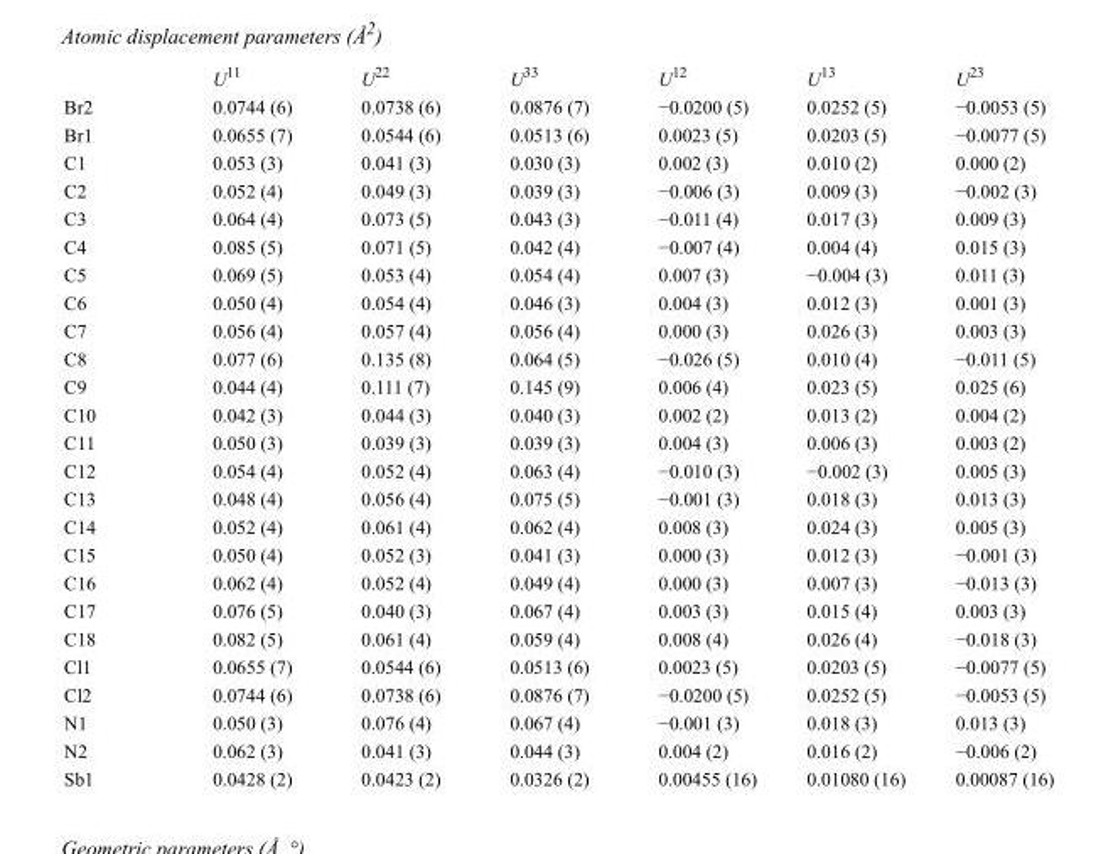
<table><thead><tr><td></td><td>U<sup>11</sup></td><td>U<sup>22</sup></td><td>U<sup>33</sup></td><td>U<sup>12</sup></td><td>U<sup>13</sup></td><td>U<sup>23</sup></td></tr></thead><tbody><tr><td>Br2</td><td>0.0744 (6)</td><td>0.0738 (6)</td><td>0.0876 (7)</td><td>−0.0200 (5)</td><td>0.0252 (5)</td><td>−0.0053 (5)</td></tr><tr><td>Br1</td><td>0.0655 (7)</td><td>0.0544 (6)</td><td>0.0513 (6)</td><td>0.0023 (5)</td><td>0.0203 (5)</td><td>−0.0077 (5)</td></tr><tr><td>C1</td><td>0.053 (3)</td><td>0.041 (3)</td><td>0.030 (3)</td><td>0.002 (3)</td><td>0.010 (2)</td><td>0.000 (2)</td></tr><tr><td>C2</td><td>0.052 (4)</td><td>0.049 (3)</td><td>0.039 (3)</td><td>−0.006 (3)</td><td>0.009 (3)</td><td>−0.002 (3)</td></tr><tr><td>C3</td><td>0.064 (4)</td><td>0.073 (5)</td><td>0.043 (3)</td><td>−0.011 (4)</td><td>0.017 (3)</td><td>0.009 (3)</td></tr><tr><td>C4</td><td>0.085 (5)</td><td>0.071 (5)</td><td>0.042 (4)</td><td>−0.007 (4)</td><td>0.004 (4)</td><td>0.015 (3)</td></tr><tr><td>C5</td><td>0.069 (5)</td><td>0.053 (4)</td><td>0.054 (4)</td><td>0.007 (3)</td><td>−0.004 (3)</td><td>0.011 (3)</td></tr><tr><td>C6</td><td>0.050 (4)</td><td>0.054 (4)</td><td>0.046 (3)</td><td>0.004 (3)</td><td>0.012 (3)</td><td>0.001 (3)</td></tr><tr><td>C7</td><td>0.056 (4)</td><td>0.057 (4)</td><td>0.056 (4)</td><td>0.000 (3)</td><td>0.026 (3)</td><td>0.003 (3)</td></tr><tr><td>C8</td><td>0.077 (6)</td><td>0.135 (8)</td><td>0.064 (5)</td><td>−0.026 (5)</td><td>0.010 (4)</td><td>−0.011 (5)</td></tr><tr><td>C9</td><td>0.044 (4)</td><td>0.111 (7)</td><td>0.145 (9)</td><td>0.006 (4)</td><td>0.023 (5)</td><td>0.025 (6)</td></tr><tr><td>C10</td><td>0.042 (3)</td><td>0.044 (3)</td><td>0.040 (3)</td><td>0.002 (2)</td><td>0.013 (2)</td><td>0.004 (2)</td></tr><tr><td>C11</td><td>0.050 (3)</td><td>0.039 (3)</td><td>0.039 (3)</td><td>0.004 (3)</td><td>0.006 (3)</td><td>0.003 (2)</td></tr><tr><td>C12</td><td>0.054 (4)</td><td>0.052 (4)</td><td>0.063 (4)</td><td>−0.010 (3)</td><td>−0.002 (3)</td><td>0.005 (3)</td></tr><tr><td>C13</td><td>0.048 (4)</td><td>0.056 (4)</td><td>0.075 (5)</td><td>−0.001 (3)</td><td>0.018 (3)</td><td>0.013 (3)</td></tr><tr><td>C14</td><td>0.052 (4)</td><td>0.061 (4)</td><td>0.062 (4)</td><td>0.008 (3)</td><td>0.024 (3)</td><td>0.005 (3)</td></tr><tr><td>C15</td><td>0.050 (4)</td><td>0.052 (3)</td><td>0.041 (3)</td><td>0.000 (3)</td><td>0.012 (3)</td><td>−0.001 (3)</td></tr><tr><td>C16</td><td>0.062 (4)</td><td>0.052 (4)</td><td>0.049 (4)</td><td>0.000 (3)</td><td>0.007 (3)</td><td>−0.013 (3)</td></tr><tr><td>C17</td><td>0.076 (5)</td><td>0.040 (3)</td><td>0.067 (4)</td><td>0.003 (3)</td><td>0.015 (4)</td><td>0.003 (3)</td></tr><tr><td>C18</td><td>0.082 (5)</td><td>0.061 (4)</td><td>0.059 (4)</td><td>0.008 (4)</td><td>0.026 (4)</td><td>−0.018 (3)</td></tr><tr><td>Cl1</td><td>0.0655 (7)</td><td>0.0544 (6)</td><td>0.0513 (6)</td><td>0.0023 (5)</td><td>0.0203 (5)</td><td>−0.0077 (5)</td></tr><tr><td>Cl2</td><td>0.0744 (6)</td><td>0.0738 (6)</td><td>0.0876 (7)</td><td>−0.0200 (5)</td><td>0.0252 (5)</td><td>−0.0053 (5)</td></tr><tr><td>N1</td><td>0.050 (3)</td><td>0.076 (4)</td><td>0.067 (4)</td><td>−0.001 (3)</td><td>0.018 (3)</td><td>0.013 (3)</td></tr><tr><td>N2</td><td>0.062 (3)</td><td>0.041 (3)</td><td>0.044 (3)</td><td>0.004 (2)</td><td>0.016 (2)</td><td>−0.006 (2)</td></tr><tr><td>Sb1</td><td>0.0428 (2)</td><td>0.0423 (2)</td><td>0.0326 (2)</td><td>0.00455 (16)</td><td>0.01080 (16)</td><td>0.00087 (16)</td></tr></tbody></table>